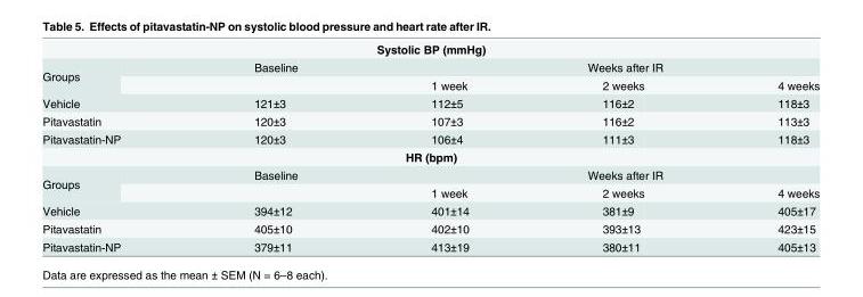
<table><tbody><tr><td colspan="5">Systolic BP (mmHg)</td></tr><tr><td rowspan="2">Groups</td><td>Baseline</td><td colspan="3">Weeks after IR</td></tr><tr><td></td><td>1 week</td><td>2 weeks</td><td>4 weeks</td></tr><tr><td>Vehicle</td><td>121±3</td><td>112±5</td><td>116±2</td><td>118±3</td></tr><tr><td>Pitavastatin</td><td>120±3</td><td>107±3</td><td>116±2</td><td>113±3</td></tr><tr><td>Pitavastatin-NP</td><td>120±3</td><td>106±4</td><td>111±3</td><td>118±3</td></tr><tr><td colspan="5">HR (bpm)</td></tr><tr><td rowspan="2">Groups</td><td>Baseline</td><td colspan="3">Weeks after IR</td></tr><tr><td></td><td>1 week</td><td>2 weeks</td><td>4 weeks</td></tr><tr><td>Vehicle</td><td>394±12</td><td>401±14</td><td>381±9</td><td>405±17</td></tr><tr><td>Pitavastatin</td><td>405±10</td><td>402±10</td><td>393±13</td><td>423±15</td></tr><tr><td>Pitavastatin-NP</td><td>379±11</td><td>413±19</td><td>380±11</td><td>405±13</td></tr></tbody></table>